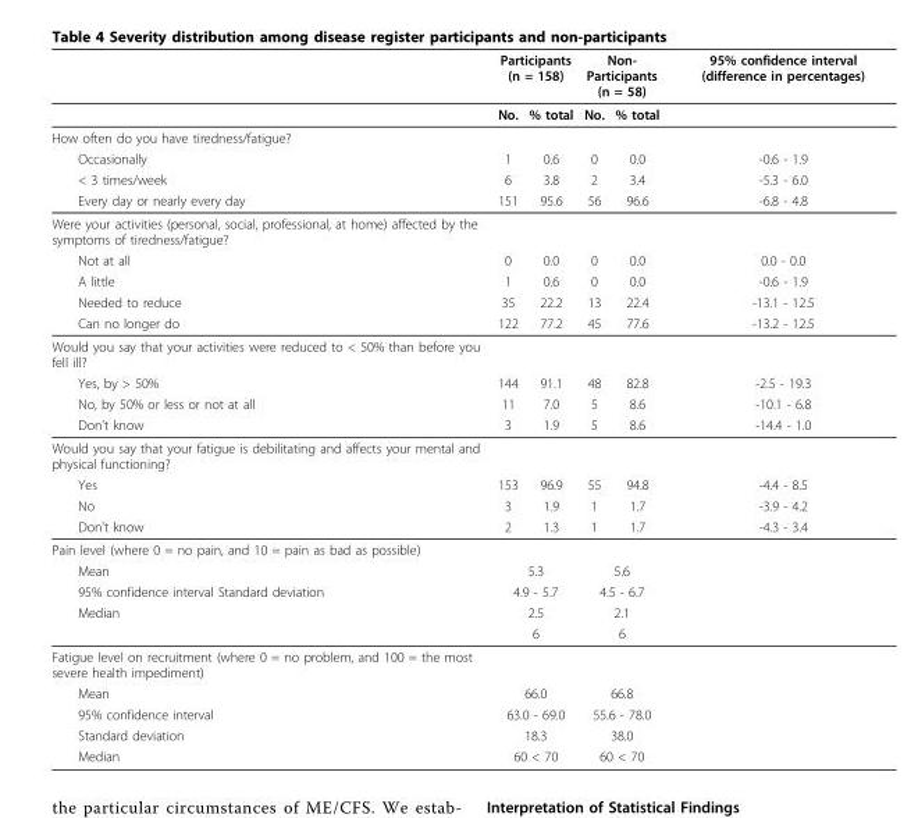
<table><thead><tr><td rowspan="2"></td><td colspan="2">Participants (n = 158)</td><td colspan="2">Non- Participants (n = 58)</td><td rowspan="2">95% confidence interval (difference in percentages)</td></tr><tr><td>No.</td><td>% total</td><td>No.</td><td>% total</td></tr></thead><tbody><tr><td colspan="6">How often do you have tiredness/fatigue?</td></tr><tr><td>Occasionally</td><td>1</td><td>0.6</td><td>0</td><td>0.0</td><td>-0.6 - 1.9</td></tr><tr><td>&lt; 3 times/week</td><td>6</td><td>3.8</td><td>2</td><td>3.4</td><td>-5.3 - 6.0</td></tr><tr><td>Every day or nearly every day</td><td>151</td><td>95.6</td><td>56</td><td>96.6</td><td>-6.8 - 4.8</td></tr><tr><td colspan="6">Were your activities (personal, social, professional, at home) affected by the symptoms of tiredness/fatigue?</td></tr><tr><td>Not at all</td><td>0</td><td>0.0</td><td>0</td><td>0.0</td><td>0.0 - 0.0</td></tr><tr><td>A little</td><td>1</td><td>0.6</td><td>0</td><td>0.0</td><td>-0.6 - 1.9</td></tr><tr><td>Needed to reduce</td><td>35</td><td>22.2</td><td>13</td><td>22.4</td><td>-13.1 - 12.5</td></tr><tr><td>Can no longer do</td><td>122</td><td>77.2</td><td>45</td><td>77.6</td><td>-13.2 - 12.5</td></tr><tr><td colspan="6">Would you say that your activities were reduced to &lt; 50% than before you fell ill?</td></tr><tr><td>Yes, by &gt; 50%</td><td>144</td><td>91.1</td><td>48</td><td>82.8</td><td>-2.5 - 19.3</td></tr><tr><td>No, by 50% or less or not at all</td><td>11</td><td>7.0</td><td>5</td><td>8.6</td><td>-10.1 - 6.8</td></tr><tr><td>Don’t know</td><td>3</td><td>1.9</td><td>5</td><td>8.6</td><td>-14.4 - 1.0</td></tr><tr><td colspan="6">Would you say that your fatigue is debilitating and affects your mental and physical functioning?</td></tr><tr><td>Yes</td><td>153</td><td>96.9</td><td>55</td><td>94.8</td><td>-4.4 - 8.5</td></tr><tr><td>No</td><td>3</td><td>1.9</td><td>1</td><td>1.7</td><td>-3.9 - 4.2</td></tr><tr><td>Don’t know</td><td>2</td><td>1.3</td><td>1</td><td>1.7</td><td>-4.3 - 3.4</td></tr><tr><td colspan="6">Pain level (where 0 = no pain, and 10 = pain as bad as possible)</td></tr><tr><td>Mean</td><td colspan="2">5.3</td><td colspan="2">5.6</td><td></td></tr><tr><td>95% confidence interval Standard deviation</td><td colspan="2">4.9 - 5.7</td><td colspan="2">4.5 - 6.7</td><td></td></tr><tr><td rowspan="2">Median</td><td colspan="2">2.5</td><td colspan="2">2.1</td><td></td></tr><tr><td colspan="2">6</td><td colspan="2">6</td><td></td></tr><tr><td colspan="6">Fatigue level on recruitment (where 0 = no problem, and 100 = the most severe health impediment)</td></tr><tr><td>Mean</td><td colspan="2">66.0</td><td colspan="2">66.8</td><td></td></tr><tr><td>95% confidence interval</td><td colspan="2">63.0 - 69.0</td><td colspan="2">55.6 - 78.0</td><td></td></tr><tr><td>Standard deviation</td><td colspan="2">18.3</td><td colspan="2">38.0</td><td></td></tr><tr><td>Median</td><td colspan="2">60 &lt; 70</td><td colspan="2">60 &lt; 70</td><td></td></tr></tbody></table>